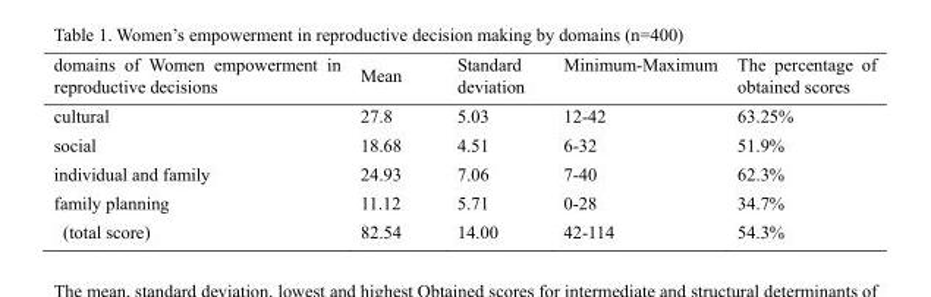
<table><thead><tr><td>domains of Women empowerment in reproductive decisions</td><td>Mean</td><td>Standard deviation</td><td>Minimum-Maximum</td><td>The percentage of obtained scores</td></tr></thead><tbody><tr><td>cultural</td><td>27.8</td><td>5.03</td><td>12-42</td><td>63.25%</td></tr><tr><td>social</td><td>18.68</td><td>4.51</td><td>6-32</td><td>51.9%</td></tr><tr><td>individual and family</td><td>24.93</td><td>7.06</td><td>7-40</td><td>62.3%</td></tr><tr><td>family planning</td><td>11.12</td><td>5.71</td><td>0-28</td><td>34.7%</td></tr><tr><td>(total score)</td><td>82.54</td><td>14.00</td><td>42-114</td><td>54.3%</td></tr></tbody></table>